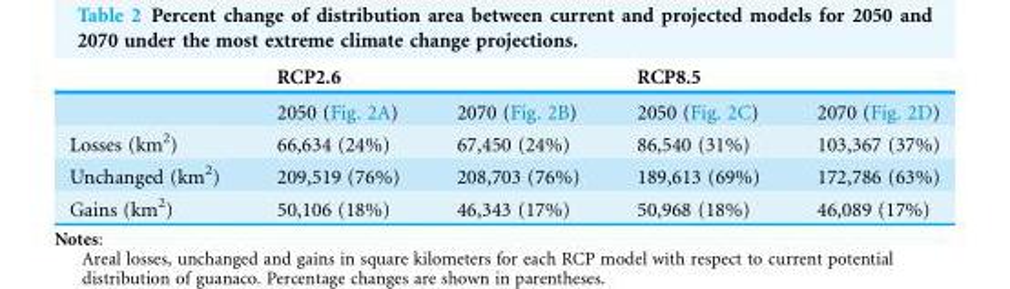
<table><thead><tr><td rowspan="2"></td><td colspan="2">RCP2.6</td><td colspan="2">RCP8.5</td></tr><tr><td>2050 (Fig. 2A)</td><td>2070 (Fig. 2B)</td><td>2050 (Fig. 2C)</td><td>2070 (Fig. 2D)</td></tr></thead><tbody><tr><td>Losses (km<sup>2</sup>)</td><td>66,634 (24%)</td><td>67,450 (24%)</td><td>86,540 (31%)</td><td>103,367 (37%)</td></tr><tr><td>Unchanged (km<sup>2</sup>)</td><td>209,519 (76%)</td><td>208,703 (76%)</td><td>189,613 (69%)</td><td>172,786 (63%)</td></tr><tr><td>Gains (km<sup>2</sup>)</td><td>50,106 (18%)</td><td>46,343 (17%)</td><td>50,968 (18%)</td><td>46,089 (17%)</td></tr></tbody></table>